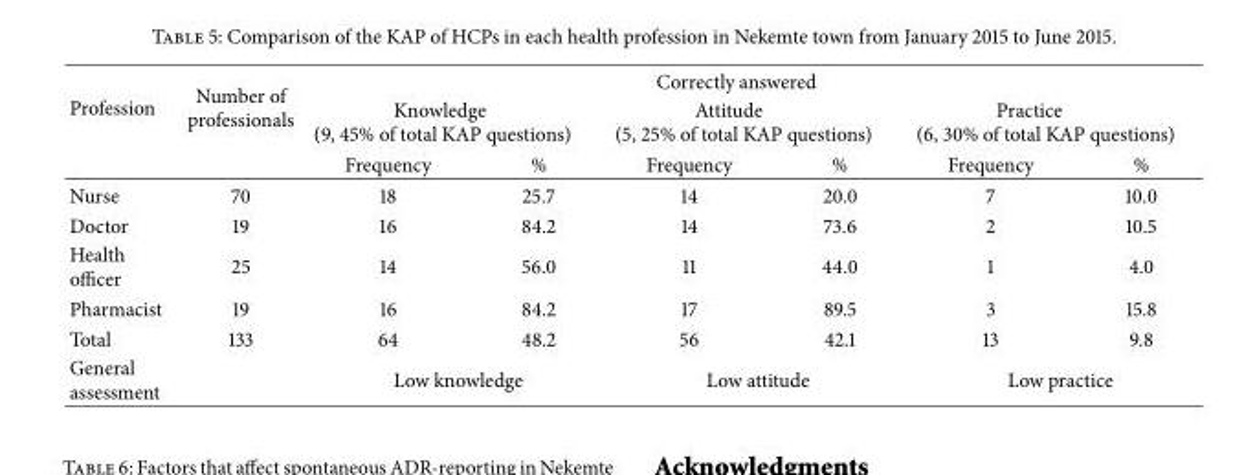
<table><thead><tr><td rowspan="3">Profession</td><td rowspan="3">Number of professionals</td><td colspan="6">Correctly answered</td></tr><tr><td colspan="2">Knowledge (9, 45% of total KAP questions)</td><td colspan="2">Attitude (5, 25% of total KAP questions)</td><td colspan="2">Practice (6, 30% of total KAP questions)</td></tr><tr><td>Frequency</td><td>%</td><td>Frequency</td><td>%</td><td>Frequency</td><td>%</td></tr></thead><tbody><tr><td>Nurse</td><td>70</td><td>18</td><td>25.7</td><td>14</td><td>20.0</td><td>7</td><td>10.0</td></tr><tr><td>Doctor</td><td>19</td><td>16</td><td>84.2</td><td>14</td><td>73.6</td><td>2</td><td>10.5</td></tr><tr><td>Health officer</td><td>25</td><td>14</td><td>56.0</td><td>11</td><td>44.0</td><td>1</td><td>4.0</td></tr><tr><td>Pharmacist</td><td>19</td><td>16</td><td>84.2</td><td>17</td><td>89.5</td><td>3</td><td>15.8</td></tr><tr><td>Total</td><td>133</td><td>64</td><td>48.2</td><td>56</td><td>42.1</td><td>13</td><td>9.8</td></tr><tr><td>General assessment</td><td></td><td colspan="2">Low knowledge</td><td colspan="2">Low attitude</td><td colspan="2">Low practice</td></tr></tbody></table>